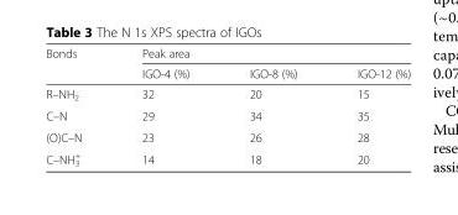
<table><thead><tr><td rowspan="2">Bonds</td><td colspan="3">Peak area</td></tr><tr><td>IGO-4 (%)</td><td>IGO-8 (%)</td><td>IGO-12 (%)</td></tr></thead><tbody><tr><td>R–NH<sub>2</sub></td><td>32</td><td>20</td><td>15</td></tr><tr><td>C–N</td><td>29</td><td>34</td><td>35</td></tr><tr><td>(O)C–N</td><td>23</td><td>26</td><td>28</td></tr><tr><td>C–NH<sub>3</sub> <sup>+</sup></td><td>14</td><td>18</td><td>20</td></tr></tbody></table>